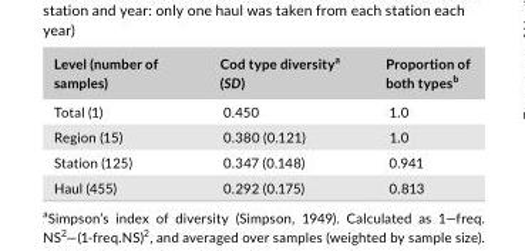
<table><thead><tr><td>Level (number of samples)</td><td>Cod type diversity<sup>a</sup> (SD)</td><td>Proportion of both types<sup>b</sup></td></tr></thead><tbody><tr><td>Total (1)</td><td>0.450</td><td>1.0</td></tr><tr><td>Region (15)</td><td>0.380 (0.121)</td><td>1.0</td></tr><tr><td>Station (125)</td><td>0.347 (0.148)</td><td>0.941</td></tr><tr><td>Haul (455)</td><td>0.292 (0.175)</td><td>0.813</td></tr></tbody></table>